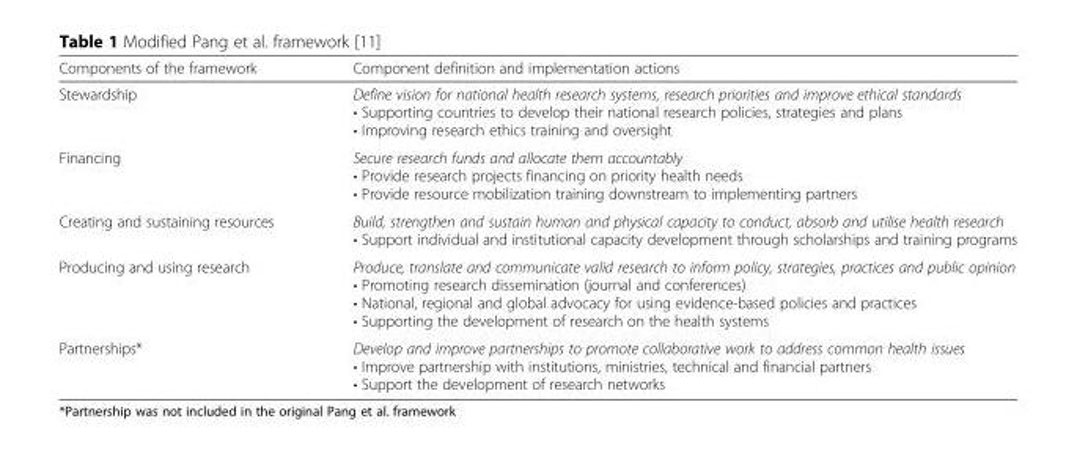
<table><thead><tr><td>Components of the framework</td><td>Component definition and implementation actions</td></tr></thead><tbody><tr><td>Stewardship</td><td>Define vision for national health research systems, research priorities and improve ethical standards • Supporting countries to develop their national research policies, strategies and plans • Improving research ethics training and oversight</td></tr><tr><td>Financing</td><td>Secure research funds and allocate them accountably • Provide research projects financing on priority health needs • Provide resource mobilization training downstream to implementing partners</td></tr><tr><td>Creating and sustaining resources</td><td>Build, strengthen and sustain human and physical capacity to conduct, absorb and utilise health research • Support individual and institutional capacity development through scholarships and training programs</td></tr><tr><td>Producing and using research</td><td>Produce, translate and communicate valid research to inform policy, strategies, practices and public opinion • Promoting research dissemination (journal and conferences) • National, regional and global advocacy for using evidence-based policies and practices • Supporting the development of research on the health systems</td></tr><tr><td>Partnerships*</td><td>Develop and improve partnerships to promote collaborative work to address common health issues • Improve partnership with institutions, ministries, technical and financial partners • Support the development of research networks</td></tr></tbody></table>